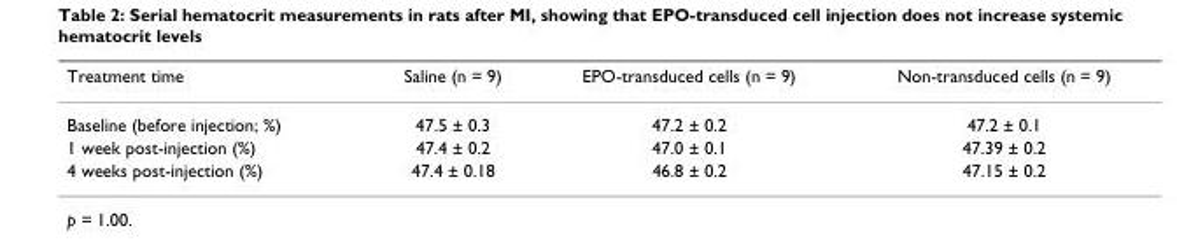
<table><thead><tr><td>Treatment time</td><td>Saline (n = 9)</td><td>EPO-transduced cells (n = 9)</td><td>Non-transduced cells (n = 9)</td></tr></thead><tbody><tr><td>Baseline (before injection; %)</td><td>47.5 ± 0.3</td><td>47.2 ± 0.2</td><td>47.2 ± 0.1</td></tr><tr><td>1 week post-injection (%)</td><td>47.4 ± 0.2</td><td>47.0 ± 0.1</td><td>47.39 ± 0.2</td></tr><tr><td>4 weeks post-injection (%)</td><td>47.4 ± 0.18</td><td>46.8 ± 0.2</td><td>47.15 ± 0.2</td></tr></tbody></table>